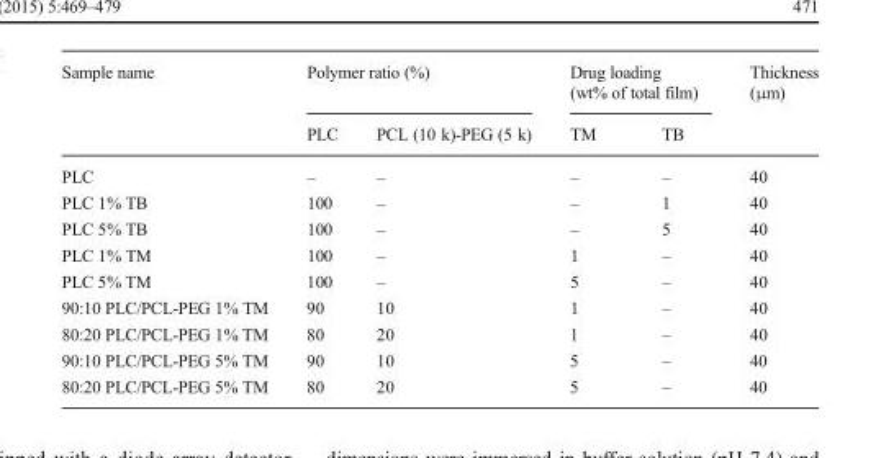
<table><thead><tr><td rowspan="2">Sample name</td><td colspan="2">Polymer ratio (%)</td><td colspan="2">Drug loading (wt% of total film)</td><td rowspan="2">Thickness (μm)</td></tr><tr><td>PLC</td><td>PCL (10 k)-PEG (5 k)</td><td>TM</td><td>TB</td></tr></thead><tbody><tr><td>PLC</td><td>–</td><td>–</td><td>–</td><td>–</td><td>40</td></tr><tr><td>PLC 1% TB</td><td>100</td><td>–</td><td>–</td><td>1</td><td>40</td></tr><tr><td>PLC 5% TB</td><td>100</td><td>–</td><td>–</td><td>5</td><td>40</td></tr><tr><td>PLC 1% TM</td><td>100</td><td>–</td><td>1</td><td>–</td><td>40</td></tr><tr><td>PLC 5% TM</td><td>100</td><td>–</td><td>5</td><td>–</td><td>40</td></tr><tr><td>90:10 PLC/PCL-PEG 1% TM</td><td>90</td><td>10</td><td>1</td><td>–</td><td>40</td></tr><tr><td>80:20 PLC/PCL-PEG 1% TM</td><td>80</td><td>20</td><td>1</td><td>–</td><td>40</td></tr><tr><td>90:10 PLC/PCL-PEG 5% TM</td><td>90</td><td>10</td><td>5</td><td>–</td><td>40</td></tr><tr><td>80:20 PLC/PCL-PEG 5% TM</td><td>80</td><td>20</td><td>5</td><td>–</td><td>40</td></tr></tbody></table>